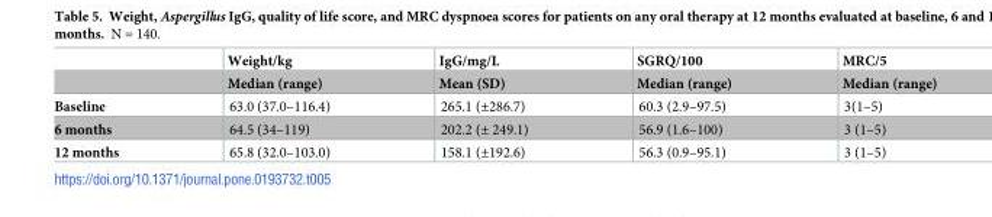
<table><thead><tr><td rowspan="2"></td><td rowspan="2">Weight/kg Median (range)</td><td rowspan="2">IgG/mg/L Mean (SD)</td><td rowspan="2">SGRQ/100 Median (range)</td><td rowspan="2">MRC/5 Median (range)</td></tr><tr></tr></thead><tbody><tr><td>Baseline</td><td>63.0 (37.0–116.4)</td><td>265.1 (±286.7)</td><td>60.3 (2.9–97.5)</td><td>3(1–5)</td></tr><tr><td>6 months</td><td>64.5 (34–119)</td><td>202.2 (± 249.1)</td><td>56.9 (1.6–100)</td><td>3 (1–5)</td></tr><tr><td>12 months</td><td>65.8 (32.0–103.0)</td><td>158.1 (±192.6)</td><td>56.3 (0.9–95.1)</td><td>3 (1–5)</td></tr></tbody></table>